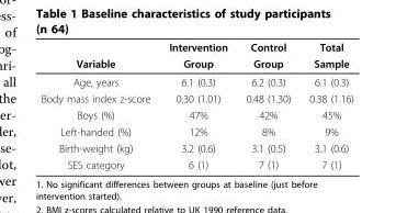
<table><thead><tr><td rowspan="2">Variable</td><td rowspan="2">Intervention Group</td><td rowspan="2">Control Group</td><td rowspan="2">Total Sample</td></tr><tr></tr></thead><tbody><tr><td>Age, years</td><td>6.1 (0.3)</td><td>6.2 (0.3)</td><td>6.1 (0.3)</td></tr><tr><td>Body mass index z-score</td><td>0.30 (1.01)</td><td>0.48 (1.30)</td><td>0.38 (1.16)</td></tr><tr><td>Boys (%)</td><td>47%</td><td>42%</td><td>45%</td></tr><tr><td>Left-handed (%)</td><td>12%</td><td>8%</td><td>9%</td></tr><tr><td>Birth-weight (kg)</td><td>3.2 (0.6)</td><td>3.1 (0.5)</td><td>3.1 (0.6)</td></tr><tr><td>SES category</td><td>6 (1)</td><td>7 (1)</td><td>7 (1)</td></tr></tbody></table>